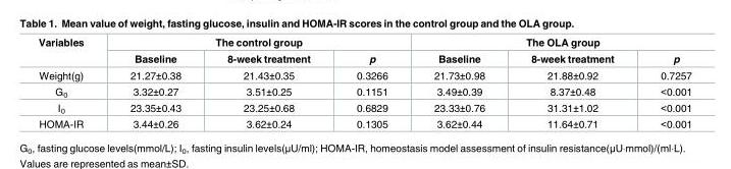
<table><thead><tr><td rowspan="2">Variables</td><td colspan="3">The control group</td><td colspan="3">The OLA group</td></tr><tr><td>Baseline</td><td>8-week treatment</td><td>p</td><td>Baseline</td><td>8-week treatment</td><td>p</td></tr></thead><tbody><tr><td>Weight(g)</td><td>21.27±0.38</td><td>21.43±0.35</td><td>0.3266</td><td>21.73±0.98</td><td>21.88±0.92</td><td>0.7257</td></tr><tr><td>G<sub>0</sub></td><td>3.32±0.27</td><td>3.51±0.25</td><td>0.1151</td><td>3.49±0.39</td><td>8.37±0.48</td><td>&lt;0.001</td></tr><tr><td>I<sub>0</sub></td><td>23.35±0.43</td><td>23.25±0.68</td><td>0.6829</td><td>23.33±0.76</td><td>31.31±1.02</td><td>&lt;0.001</td></tr><tr><td>HOMA-IR</td><td>3.44±0.26</td><td>3.62±0.24</td><td>0.1305</td><td>3.62±0.44</td><td>11.64±0.71</td><td>&lt;0.001</td></tr></tbody></table>